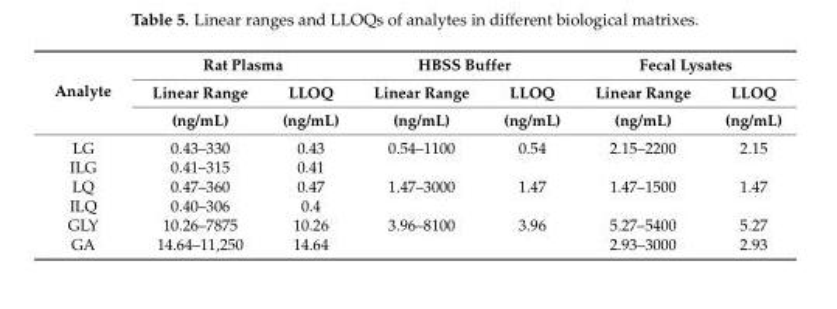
<table><thead><tr><td rowspan="3">Analyte</td><td colspan="2">Rat Plasma</td><td colspan="2">HBSS Buffer</td><td colspan="2">Fecal Lysates</td></tr><tr><td rowspan="2">Linear Range (ng/mL)</td><td rowspan="2">LLOQ (ng/mL)</td><td rowspan="2">Linear Range (ng/mL)</td><td rowspan="2">LLOQ (ng/mL)</td><td rowspan="2">Linear Range (ng/mL)</td><td rowspan="2">LLOQ (ng/mL)</td></tr><tr></tr></thead><tbody><tr><td>LG</td><td>0.43–330</td><td>0.43</td><td>0.54–1100</td><td>0.54</td><td>2.15–2200</td><td>2.15</td></tr><tr><td>ILG</td><td>0.41–315</td><td>0.41</td><td></td><td></td><td></td><td></td></tr><tr><td>LQ</td><td>0.47–360</td><td>0.47</td><td>1.47–3000</td><td>1.47</td><td>1.47–1500</td><td>1.47</td></tr><tr><td>ILQ</td><td>0.40–306</td><td>0.4</td><td></td><td></td><td></td><td></td></tr><tr><td>GLY</td><td>10.26–7875</td><td>10.26</td><td>3.96–8100</td><td>3.96</td><td>5.27–5400</td><td>5.27</td></tr><tr><td>GA</td><td>14.64–11,250</td><td>14.64</td><td></td><td></td><td>2.93–3000</td><td>2.93</td></tr></tbody></table>